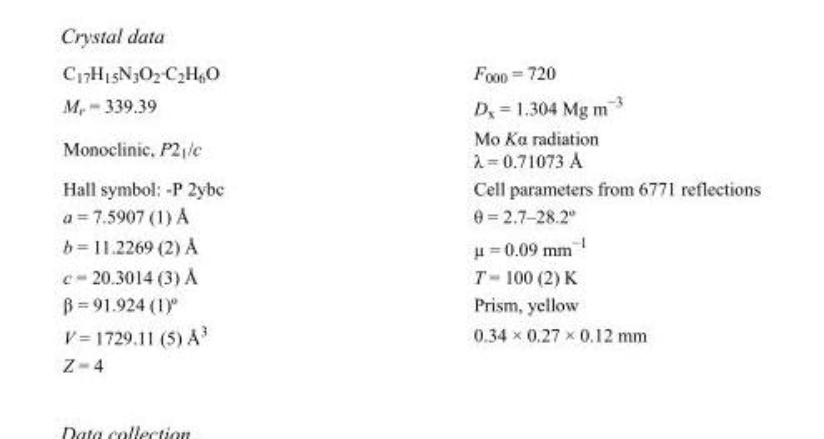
<table><tbody><tr><td>C<sub>17</sub>H<sub>15</sub>N<sub>3</sub>O<sub>2</sub>·C<sub>2</sub>H<sub>6</sub>O</td><td>F<sub>000</sub> = 720</td></tr><tr><td>M<sub>r</sub> = 339.39</td><td>D<sub>x</sub> = 1.304 Mg m<sup>−3</sup></td></tr><tr><td>Monoclinic, P2<sub>1</sub>/c</td><td>Mo Kα radiation λ = 0.71073 Å</td></tr><tr><td>Hall symbol: -P 2ybc</td><td>Cell parameters from 6771 reflections</td></tr><tr><td>a = 7.5907 (1) Å</td><td>θ = 2.7–28.2º</td></tr><tr><td>b = 11.2269 (2) Å</td><td>µ = 0.09 mm<sup>−1</sup></td></tr><tr><td>c = 20.3014 (3) Å</td><td>T = 100 (2) K</td></tr><tr><td>β = 91.924 (1)º</td><td>Prism, yellow</td></tr><tr><td>V = 1729.11 (5) Å<sup>3</sup></td><td>0.34 × 0.27 × 0.12 mm</td></tr><tr><td>Z = 4</td><td></td></tr></tbody></table>